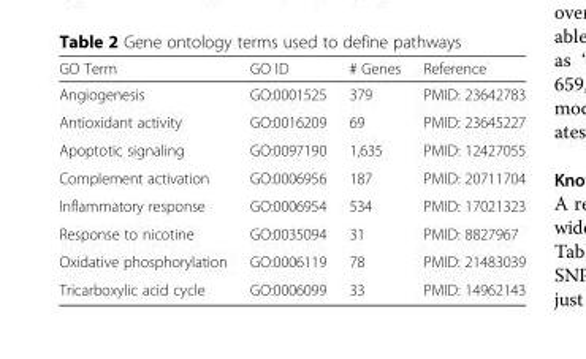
<table><thead><tr><td>GO Term</td><td>GO ID</td><td># Genes</td><td>Reference</td></tr></thead><tbody><tr><td>Angiogenesis</td><td>GO:0001525</td><td>379</td><td>PMID: 23642783</td></tr><tr><td>Antioxidant activity</td><td>GO:0016209</td><td>69</td><td>PMID: 23645227</td></tr><tr><td>Apoptotic signaling</td><td>GO:0097190</td><td>1,635</td><td>PMID: 12427055</td></tr><tr><td>Complement activation</td><td>GO:0006956</td><td>187</td><td>PMID: 20711704</td></tr><tr><td>Inflammatory response</td><td>GO:0006954</td><td>534</td><td>PMID: 17021323</td></tr><tr><td>Response to nicotine</td><td>GO:0035094</td><td>31</td><td>PMID: 8827967</td></tr><tr><td>Oxidative phosphorylation</td><td>GO:0006119</td><td>78</td><td>PMID: 21483039</td></tr><tr><td>Tricarboxylic acid cycle</td><td>GO:0006099</td><td>33</td><td>PMID: 14962143</td></tr></tbody></table>